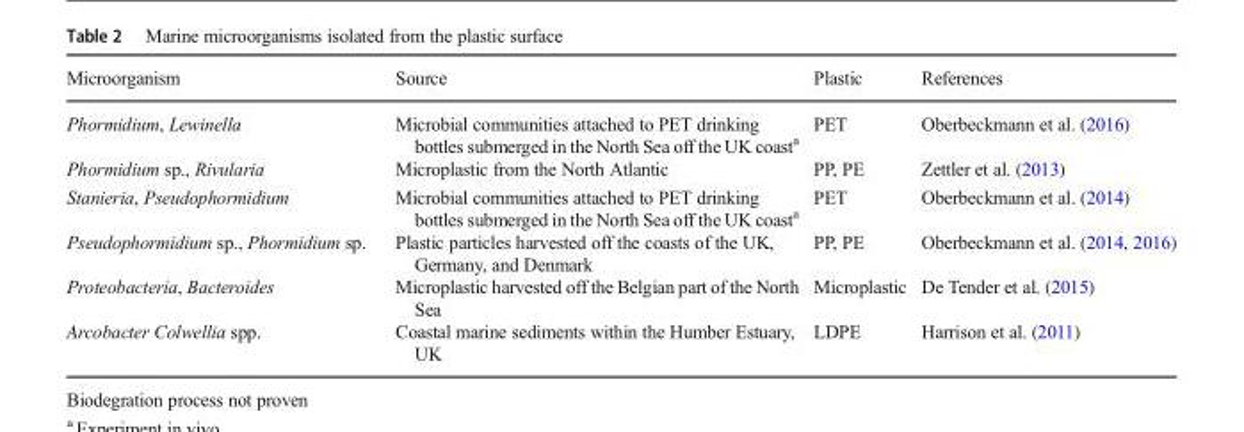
<table><thead><tr><td>Microorganism</td><td>Source</td><td>Plastic</td><td>References</td></tr></thead><tbody><tr><td>Phormidium, Lewinella</td><td>Microbial communities attached to PET drinking bottles submerged in the North Sea off the UK coast<sup>a</sup></td><td>PET</td><td>Oberbeckmann et al. (2016)</td></tr><tr><td>Phormidium sp., Rivularia</td><td>Microplastic from the North Atlantic</td><td>PP, PE</td><td>Zettler et al. (2013)</td></tr><tr><td>Stanieria, Pseudophormidium</td><td>Microbial communities attached to PET drinking bottles submerged in the North Sea off the UK coast<sup>a</sup></td><td>PET</td><td>Oberbeckmann et al. (2014)</td></tr><tr><td>Pseudophormidium sp., Phormidium sp.</td><td>Plastic particles harvested off the coasts of the UK, Germany, and Denmark</td><td>PP, PE</td><td>Oberbeckmann et al. (2014, 2016)</td></tr><tr><td>Proteobacteria, Bacteroides</td><td>Microplastic harvested off the Belgian part of the North Sea</td><td>Microplastic</td><td>De Tender et al. (2015)</td></tr><tr><td>Arcobacter Colwellia spp.</td><td>Coastal marine sediments within the Humber Estuary, UK</td><td>LDPE</td><td>Harrison et al. (2011)</td></tr></tbody></table>